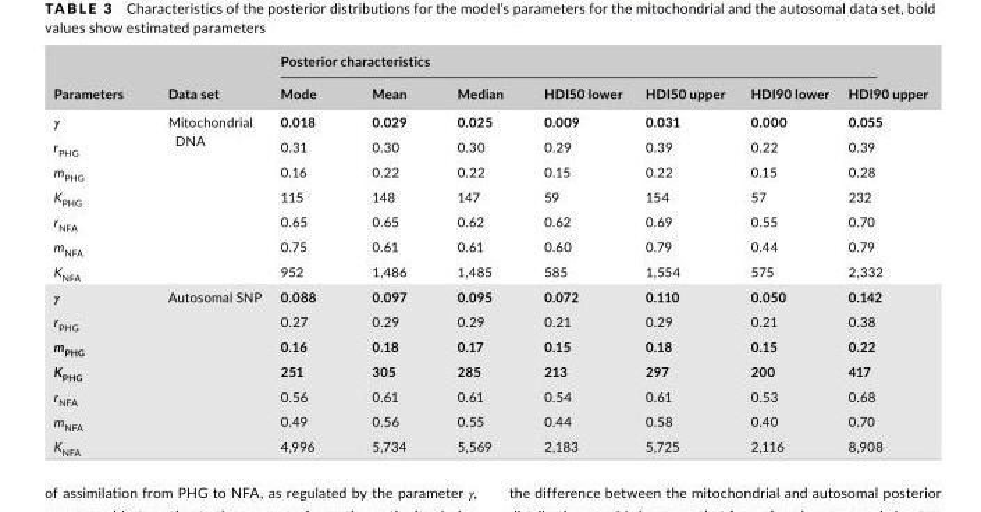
<table><thead><tr><td rowspan="2">Parameters</td><td rowspan="2">Data set</td><td colspan="7">Posterior characteristics</td></tr><tr><td>Mode</td><td>Mean</td><td>Median</td><td>HDI50 lower</td><td>HDI50 upper</td><td>HDI90 lower</td><td>HDI90 upper</td></tr></thead><tbody><tr><td>γ</td><td rowspan="7">Mitochondrial DNA</td><td>0.018</td><td>0.029</td><td>0.025</td><td>0.009</td><td>0.031</td><td>0.000</td><td>0.055</td></tr><tr><td>r<sub>PHG</sub></td><td>0.31</td><td>0.30</td><td>0.30</td><td>0.29</td><td>0.39</td><td>0.22</td><td>0.39</td></tr><tr><td>m<sub>PHG</sub></td><td>0.16</td><td>0.22</td><td>0.22</td><td>0.15</td><td>0.22</td><td>0.15</td><td>0.28</td></tr><tr><td>K<sub>PHG</sub></td><td>115</td><td>148</td><td>147</td><td>59</td><td>154</td><td>57</td><td>232</td></tr><tr><td>r<sub>NFA</sub></td><td>0.65</td><td>0.65</td><td>0.62</td><td>0.62</td><td>0.69</td><td>0.55</td><td>0.70</td></tr><tr><td>m<sub>NFA</sub></td><td>0.75</td><td>0.61</td><td>0.61</td><td>0.60</td><td>0.79</td><td>0.44</td><td>0.79</td></tr><tr><td>K<sub>NFA</sub></td><td>952</td><td>1,486</td><td>1,485</td><td>585</td><td>1,554</td><td>575</td><td>2,332</td></tr><tr><td>γ</td><td rowspan="7">Autosomal SNP</td><td>0.088</td><td>0.097</td><td>0.095</td><td>0.072</td><td>0.110</td><td>0.050</td><td>0.142</td></tr><tr><td>r<sub>PHG</sub></td><td>0.27</td><td>0.29</td><td>0.29</td><td>0.21</td><td>0.29</td><td>0.21</td><td>0.38</td></tr><tr><td>m<sub>PHG</sub></td><td>0.16</td><td>0.18</td><td>0.17</td><td>0.15</td><td>0.18</td><td>0.15</td><td>0.22</td></tr><tr><td>K<sub>PHG</sub></td><td>251</td><td>305</td><td>285</td><td>213</td><td>297</td><td>200</td><td>417</td></tr><tr><td>r<sub>NFA</sub></td><td>0.56</td><td>0.61</td><td>0.61</td><td>0.54</td><td>0.61</td><td>0.53</td><td>0.68</td></tr><tr><td>m<sub>NFA</sub></td><td>0.49</td><td>0.56</td><td>0.55</td><td>0.44</td><td>0.58</td><td>0.40</td><td>0.70</td></tr><tr><td>K<sub>NFA</sub></td><td>4,996</td><td>5,734</td><td>5,569</td><td>2,183</td><td>5,725</td><td>2,116</td><td>8,908</td></tr></tbody></table>